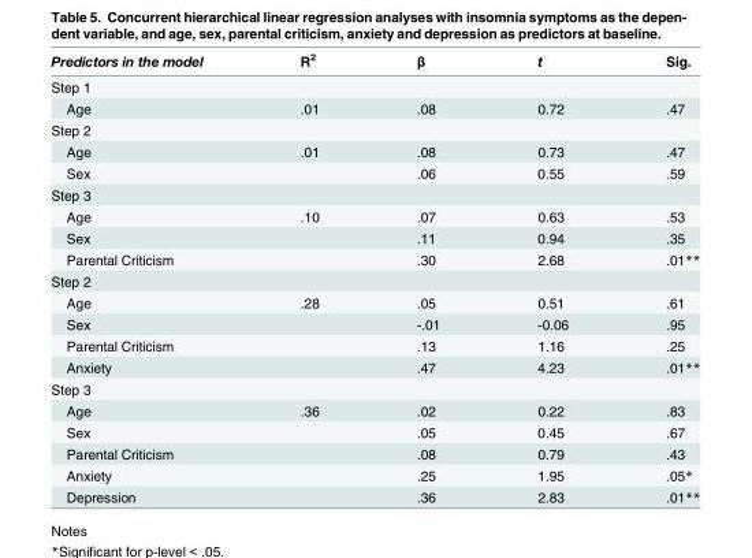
<table><thead><tr><td>Predictors in the model</td><td>R<sup>2</sup></td><td>β</td><td>t</td><td>Sig.</td></tr></thead><tbody><tr><td colspan="5">Step 1</td></tr><tr><td>Age</td><td>.01</td><td>.08</td><td>0.72</td><td>.47</td></tr><tr><td colspan="5">Step 2</td></tr><tr><td>Age</td><td>.01</td><td>.08</td><td>0.73</td><td>.47</td></tr><tr><td>Sex</td><td></td><td>.06</td><td>0.55</td><td>.59</td></tr><tr><td colspan="5">Step 3</td></tr><tr><td>Age</td><td>.10</td><td>.07</td><td>0.63</td><td>.53</td></tr><tr><td>Sex</td><td></td><td>.11</td><td>0.94</td><td>.35</td></tr><tr><td>Parental Criticism</td><td></td><td>.30</td><td>2.68</td><td>.01**</td></tr><tr><td colspan="5">Step 2</td></tr><tr><td>Age</td><td>.28</td><td>.05</td><td>0.51</td><td>.61</td></tr><tr><td>Sex</td><td></td><td>-.01</td><td>-0.06</td><td>.95</td></tr><tr><td>Parental Criticism</td><td></td><td>.13</td><td>1.16</td><td>.25</td></tr><tr><td>Anxiety</td><td></td><td>.47</td><td>4.23</td><td>.01**</td></tr><tr><td colspan="5">Step 3</td></tr><tr><td>Age</td><td>.36</td><td>.02</td><td>0.22</td><td>.83</td></tr><tr><td>Sex</td><td></td><td>.05</td><td>0.45</td><td>.67</td></tr><tr><td>Parental Criticism</td><td></td><td>.08</td><td>0.79</td><td>.43</td></tr><tr><td>Anxiety</td><td></td><td>.25</td><td>1.95</td><td>.05*</td></tr><tr><td>Depression</td><td></td><td>.36</td><td>2.83</td><td>.01**</td></tr></tbody></table>